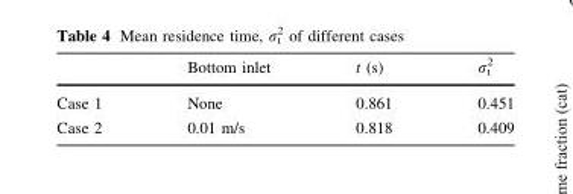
<table><thead><tr><td></td><td>Bottom inlet</td><td>t (s)</td><td>σ<sub>t</sub> <sup>2</sup></td></tr></thead><tbody><tr><td>Case 1</td><td>None</td><td>0.861</td><td>0.451</td></tr><tr><td>Case 2</td><td>0.01 m/s</td><td>0.818</td><td>0.409</td></tr></tbody></table>